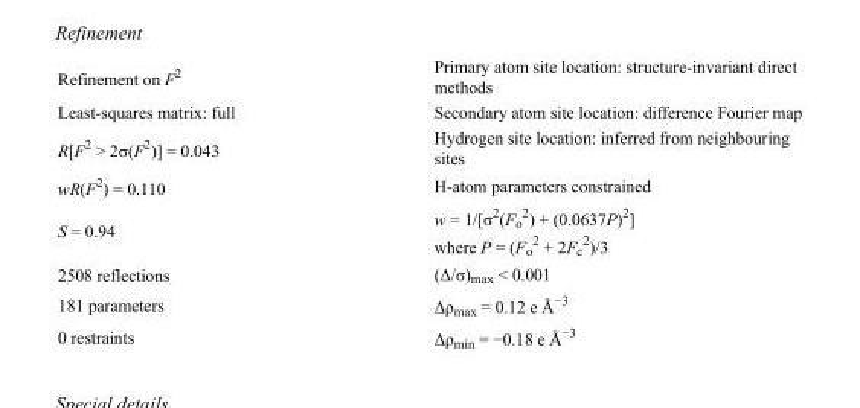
<table><tbody><tr><td>Refinement on F<sup>2</sup></td><td>Primary atom site location: structure-invariant direct methods</td></tr><tr><td>Least-squares matrix: full</td><td>Secondary atom site location: difference Fourier map</td></tr><tr><td>R[F<sup>2</sup> &gt; 2σ(F<sup>2</sup>)] = 0.043</td><td>Hydrogen site location: inferred from neighbouring sites</td></tr><tr><td>wR(F<sup>2</sup>) = 0.110</td><td>H-atom parameters constrained</td></tr><tr><td>S = 0.94</td><td>w = 1/[σ<sup>2</sup>(F<sub>o</sub> <sup>2</sup>) + (0.0637P)<sup>2</sup>] where P = (F<sub>o</sub> <sup>2</sup> + 2F<sub>c</sub> <sup>2</sup>)/3</td></tr><tr><td>2508 reflections</td><td>(Δ/σ)<sub>max</sub> &lt; 0.001</td></tr><tr><td>181 parameters</td><td>Δρ<sub>max</sub> = 0.12 e Å<sup>−3</sup></td></tr><tr><td>0 restraints</td><td>Δρ<sub>min</sub> = −0.18 e Å<sup>−3</sup></td></tr></tbody></table>